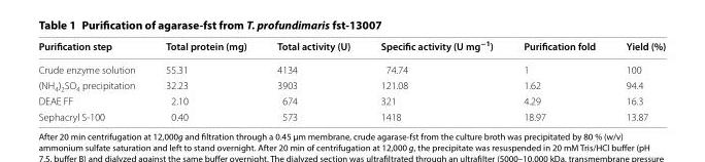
<table><thead><tr><td>Purification step</td><td>Total protein (mg)</td><td>Total activity (U)</td><td>Specific activity (U mg<sup>−1</sup>)</td><td>Purification fold</td><td>Yield (%)</td></tr></thead><tbody><tr><td>Crude enzyme solution</td><td>55.31</td><td>4134</td><td>74.74</td><td>1</td><td>100</td></tr><tr><td>(NH<sub>4</sub>)<sub>2</sub>SO<sub>4</sub> precipitation</td><td>32.23</td><td>3903</td><td>121.08</td><td>1.62</td><td>94.4</td></tr><tr><td>DEAE FF</td><td>2.10</td><td>674</td><td>321</td><td>4.29</td><td>16.3</td></tr><tr><td>Sephacryl S-100</td><td>0.40</td><td>573</td><td>1418</td><td>18.97</td><td>13.87</td></tr></tbody></table>